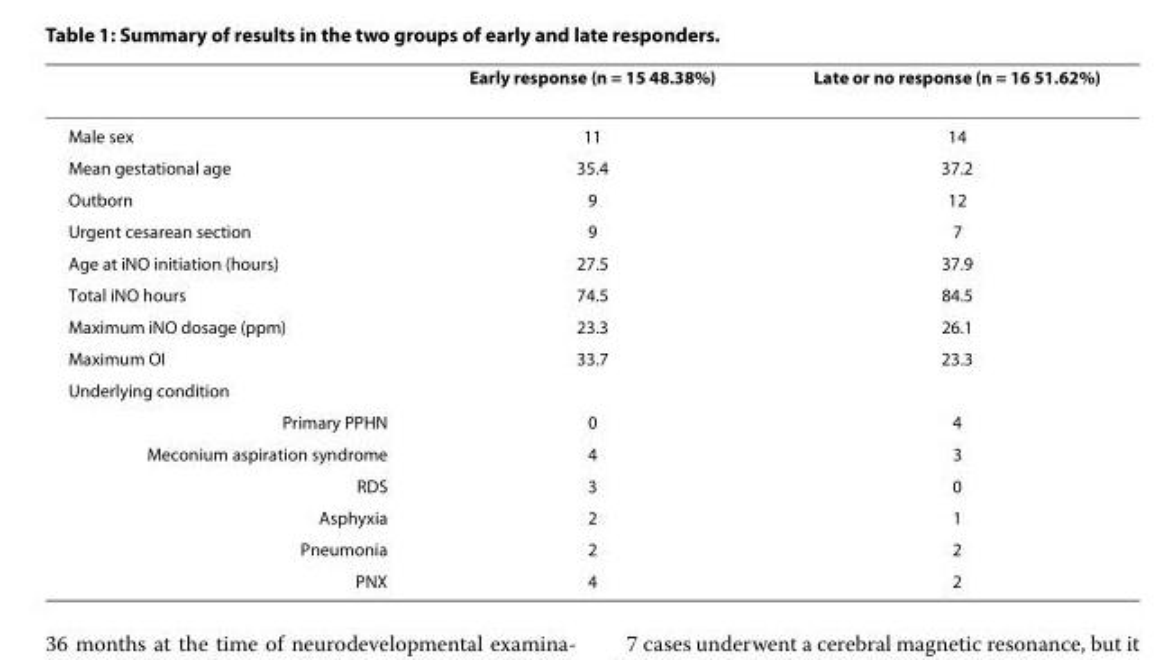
<table><thead><tr><td></td><td>Early response (n = 15 48.38%)</td><td>Late or no response (n = 16 51.62%)</td></tr></thead><tbody><tr><td>Male sex</td><td>11</td><td>14</td></tr><tr><td>Mean gestational age</td><td>35.4</td><td>37.2</td></tr><tr><td>Outborn</td><td>9</td><td>12</td></tr><tr><td>Urgent cesarean section</td><td>9</td><td>7</td></tr><tr><td>Age at iNO initiation (hours)</td><td>27.5</td><td>37.9</td></tr><tr><td>Total iNO hours</td><td>74.5</td><td>84.5</td></tr><tr><td>Maximum iNO dosage (ppm)</td><td>23.3</td><td>26.1</td></tr><tr><td>Maximum OI</td><td>33.7</td><td>23.3</td></tr><tr><td colspan="3">Underlying condition</td></tr><tr><td>Primary PPHN</td><td>0</td><td>4</td></tr><tr><td>Meconium aspiration syndrome</td><td>4</td><td>3</td></tr><tr><td>RDS</td><td>3</td><td>0</td></tr><tr><td>Asphyxia</td><td>2</td><td>1</td></tr><tr><td>Pneumonia</td><td>2</td><td>2</td></tr><tr><td>PNX</td><td>4</td><td>2</td></tr></tbody></table>